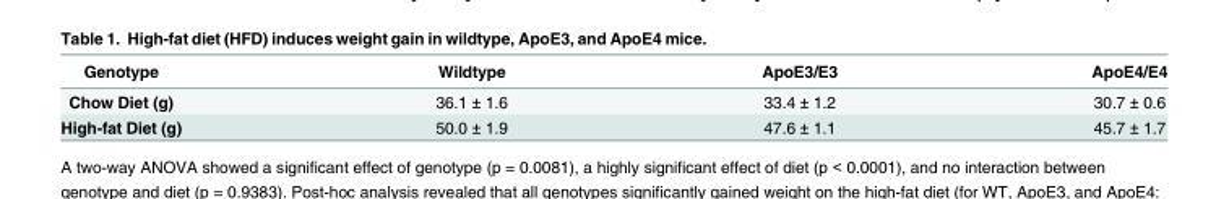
<table><thead><tr><td>Genotype</td><td>Wildtype</td><td>ApoE3/E3</td><td>ApoE4/E4</td></tr></thead><tbody><tr><td>Chow Diet (g)</td><td>36.1 ± 1.6</td><td>33.4 ± 1.2</td><td>30.7 ± 0.6</td></tr><tr><td>High-fat Diet (g)</td><td>50.0 ± 1.9</td><td>47.6 ± 1.1</td><td>45.7 ± 1.7</td></tr></tbody></table>